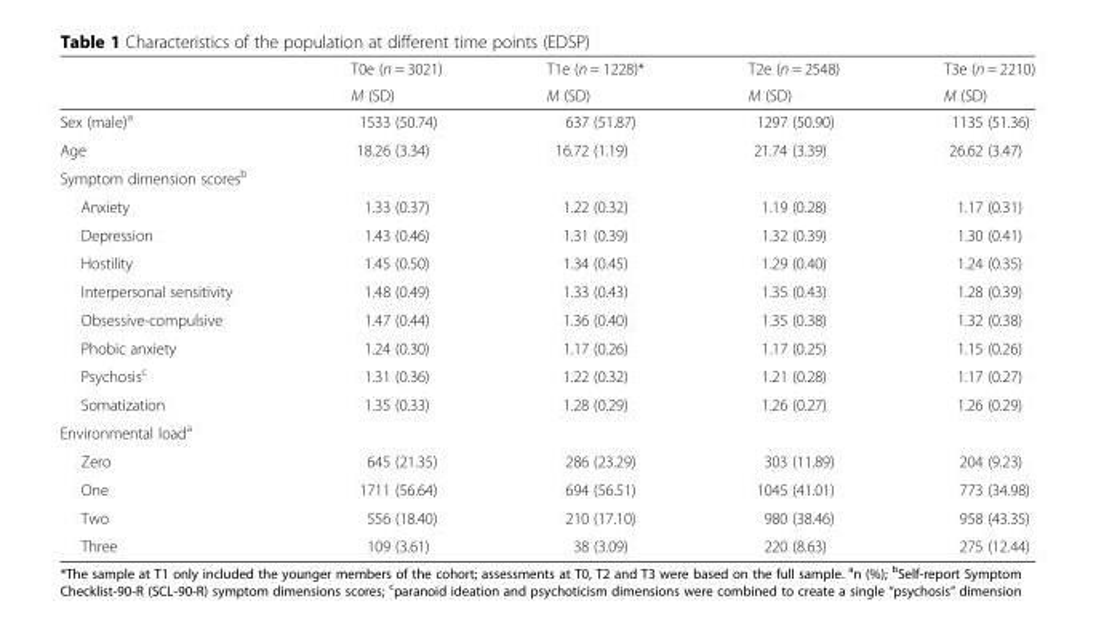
<table><thead><tr><td rowspan="2"></td><td rowspan="2">T0e (n = 3021) M (SD)</td><td rowspan="2">T1e (n = 1228)* M (SD)</td><td rowspan="2">T2e (n = 2548) M (SD)</td><td rowspan="2">T3e (n = 2210) M (SD)</td></tr><tr></tr></thead><tbody><tr><td>Sex (male)<sup>a</sup></td><td>1533 (50.74)</td><td>637 (51.87)</td><td>1297 (50.90)</td><td>1135 (51.36)</td></tr><tr><td>Age</td><td>18.26 (3.34)</td><td>16.72 (1.19)</td><td>21.74 (3.39)</td><td>26.62 (3.47)</td></tr><tr><td colspan="5">Symptom dimension scores<sup>b</sup></td></tr><tr><td>Anxiety</td><td>1.33 (0.37)</td><td>1.22 (0.32)</td><td>1.19 (0.28)</td><td>1.17 (0.31)</td></tr><tr><td>Depression</td><td>1.43 (0.46)</td><td>1.31 (0.39)</td><td>1.32 (0.39)</td><td>1.30 (0.41)</td></tr><tr><td>Hostility</td><td>1.45 (0.50)</td><td>1.34 (0.45)</td><td>1.29 (0.40)</td><td>1.24 (0.35)</td></tr><tr><td>Interpersonal sensitivity</td><td>1.48 (0.49)</td><td>1.33 (0.43)</td><td>1.35 (0.43)</td><td>1.28 (0.39)</td></tr><tr><td>Obsessive-compulsive</td><td>1.47 (0.44)</td><td>1.36 (0.40)</td><td>1.35 (0.38)</td><td>1.32 (0.38)</td></tr><tr><td>Phobic anxiety</td><td>1.24 (0.30)</td><td>1.17 (0.26)</td><td>1.17 (0.25)</td><td>1.15 (0.26)</td></tr><tr><td>Psychosis<sup>c</sup></td><td>1.31 (0.36)</td><td>1.22 (0.32)</td><td>1.21 (0.28)</td><td>1.17 (0.27)</td></tr><tr><td>Somatization</td><td>1.35 (0.33)</td><td>1.28 (0.29)</td><td>1.26 (0.27)</td><td>1.26 (0.29)</td></tr><tr><td colspan="5">Environmental load<sup>a</sup></td></tr><tr><td>Zero</td><td>645 (21.35)</td><td>286 (23.29)</td><td>303 (11.89)</td><td>204 (9.23)</td></tr><tr><td>One</td><td>1711 (56.64)</td><td>694 (56.51)</td><td>1045 (41.01)</td><td>773 (34.98)</td></tr><tr><td>Two</td><td>556 (18.40)</td><td>210 (17.10)</td><td>980 (38.46)</td><td>958 (43.35)</td></tr><tr><td>Three</td><td>109 (3.61)</td><td>38 (3.09)</td><td>220 (8.63)</td><td>275 (12.44)</td></tr></tbody></table>